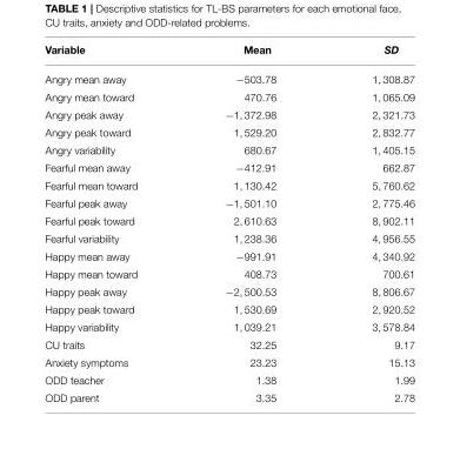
<table><thead><tr><td>Variable</td><td>Mean</td><td>SD</td></tr></thead><tbody><tr><td>Angry mean away</td><td>−503.78</td><td>1, 308.87</td></tr><tr><td>Angry mean toward</td><td>470.76</td><td>1, 065.09</td></tr><tr><td>Angry peak away</td><td>−1, 372.98</td><td>2, 321.73</td></tr><tr><td>Angry peak toward</td><td>1, 529.20</td><td>2, 832.77</td></tr><tr><td>Angry variability</td><td>680.67</td><td>1, 405.15</td></tr><tr><td>Fearful mean away</td><td>−412.91</td><td>662.87</td></tr><tr><td>Fearful mean toward</td><td>1, 130.42</td><td>5, 760.62</td></tr><tr><td>Fearful peak away</td><td>−1, 501.10</td><td>2, 775.46</td></tr><tr><td>Fearful peak toward</td><td>2, 610.63</td><td>8, 902.11</td></tr><tr><td>Fearful variability</td><td>1, 238.36</td><td>4, 956.55</td></tr><tr><td>Happy mean away</td><td>−991.91</td><td>4, 340.92</td></tr><tr><td>Happy mean toward</td><td>408.73</td><td>700.61</td></tr><tr><td>Happy peak away</td><td>−2, 500.53</td><td>8, 806.67</td></tr><tr><td>Happy peak toward</td><td>1, 530.69</td><td>2, 920.52</td></tr><tr><td>Happy variability</td><td>1, 039.21</td><td>3, 578.84</td></tr><tr><td>CU traits</td><td>32.25</td><td>9.17</td></tr><tr><td>Anxiety symptoms</td><td>23.23</td><td>15.13</td></tr><tr><td>ODD teacher</td><td>1.38</td><td>1.99</td></tr><tr><td>ODD parent</td><td>3.35</td><td>2.78</td></tr></tbody></table>